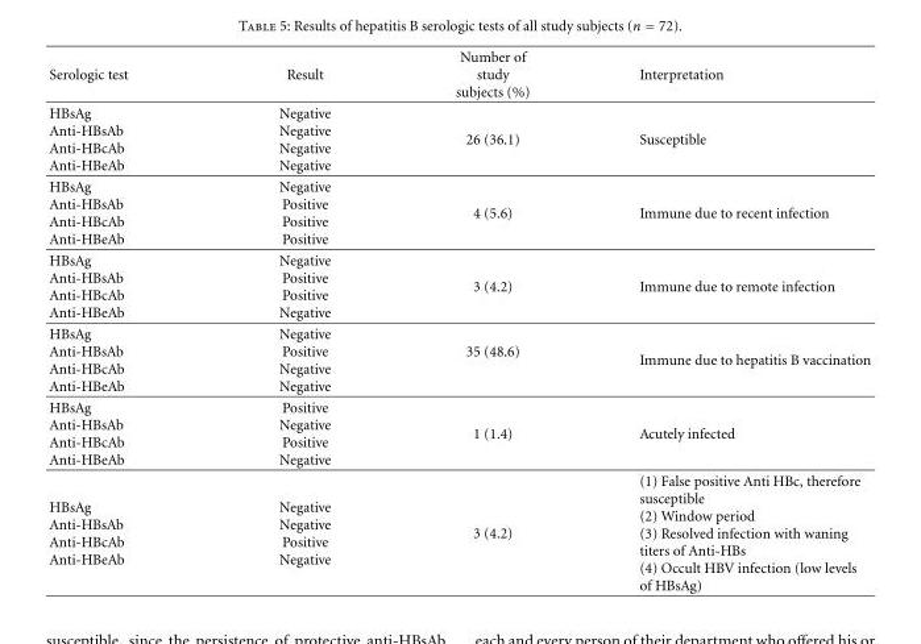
<table><thead><tr><td>Serologic test</td><td>Result</td><td>Number of study subjects (%)</td><td>Interpretation</td></tr></thead><tbody><tr><td>HBsAg Anti-HBsAb Anti-HBcAb Anti-HBeAb</td><td>Negative Negative Negative Negative</td><td>26 (36.1)</td><td>Susceptible</td></tr><tr><td>HBsAg Anti-HBsAb Anti-HBcAb Anti-HBeAb</td><td>Negative Positive Positive Positive</td><td>4 (5.6)</td><td>Immune due to recent infection</td></tr><tr><td>HBsAg Anti-HBsAb Anti-HBcAb Anti-HBeAb</td><td>Negative Positive Positive Negative</td><td>3 (4.2)</td><td>Immune due to remote infection</td></tr><tr><td>HBsAg Anti-HBsAb Anti-HBcAb Anti-HBeAb</td><td>Negative Positive Negative Negative</td><td>35 (48.6)</td><td>Immune due to hepatitis B vaccination</td></tr><tr><td>HBsAg Anti-HBsAb Anti-HBcAb Anti-HBeAb</td><td>Positive Negative Positive Negative</td><td>1 (1.4)</td><td>Acutely infected</td></tr><tr><td>HBsAg Anti-HBsAb Anti-HBcAb Anti-HBeAb</td><td>Negative Negative Positive Negative</td><td>3 (4.2)</td><td>(1) False positive Anti HBc, therefore susceptible (2) Window period (3) Resolved infection with waning titers of Anti-HBs (4) Occult HBV infection (low levels of HBsAg)</td></tr></tbody></table>